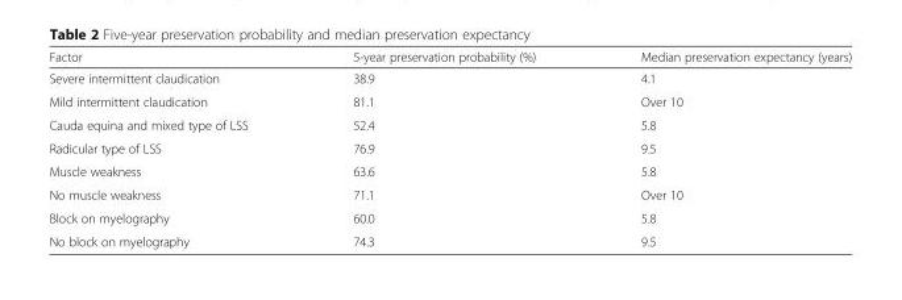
<table><thead><tr><td>Factor</td><td>5-year preservation probability (%)</td><td>Median preservation expectancy (years)</td></tr></thead><tbody><tr><td>Severe intermittent claudication</td><td>38.9</td><td>4.1</td></tr><tr><td>Mild intermittent claudication</td><td>81.1</td><td>Over 10</td></tr><tr><td>Cauda equina and mixed type of LSS</td><td>52.4</td><td>5.8</td></tr><tr><td>Radicular type of LSS</td><td>76.9</td><td>9.5</td></tr><tr><td>Muscle weakness</td><td>63.6</td><td>5.8</td></tr><tr><td>No muscle weakness</td><td>71.1</td><td>Over 10</td></tr><tr><td>Block on myelography</td><td>60.0</td><td>5.8</td></tr><tr><td>No block on myelography</td><td>74.3</td><td>9.5</td></tr></tbody></table>